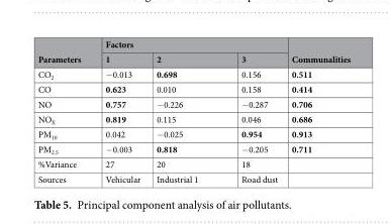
<table><thead><tr><td rowspan="2">Parameters</td><td colspan="3">Factors</td><td rowspan="2">Communalities</td></tr><tr><td>1</td><td>2</td><td>3</td></tr></thead><tbody><tr><td>CO<sub>2</sub></td><td>−0.013</td><td>0.698</td><td>0.156</td><td>0.511</td></tr><tr><td>CO</td><td>0.623</td><td>0.010</td><td>0.158</td><td>0.414</td></tr><tr><td>NO</td><td>0.757</td><td>−0.226</td><td>−0.287</td><td>0.706</td></tr><tr><td>NO<sub>X</sub></td><td>0.819</td><td>0.115</td><td>0.046</td><td>0.686</td></tr><tr><td>PM<sub>10</sub></td><td>0.042</td><td>−0.025</td><td>0.954</td><td>0.913</td></tr><tr><td>PM<sub>2.5</sub></td><td>−0.003</td><td>0.818</td><td>−0.205</td><td>0.711</td></tr><tr><td>%Variance</td><td>27</td><td>20</td><td>18</td><td></td></tr><tr><td>Sources</td><td>Vehicular</td><td>Industrial 1</td><td>Road dust</td><td></td></tr></tbody></table>